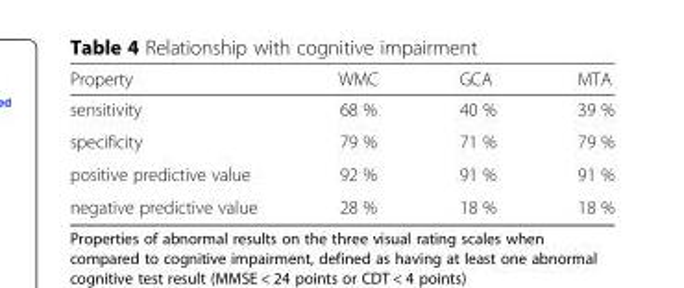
<table><thead><tr><td>Property</td><td>WMC</td><td>GCA</td><td>MTA</td></tr></thead><tbody><tr><td>sensitivity</td><td>68 %</td><td>40 %</td><td>39 %</td></tr><tr><td>specificity</td><td>79 %</td><td>71 %</td><td>79 %</td></tr><tr><td>positive predictive value</td><td>92 %</td><td>91 %</td><td>91 %</td></tr><tr><td>negative predictive value</td><td>28 %</td><td>18 %</td><td>18 %</td></tr></tbody></table>